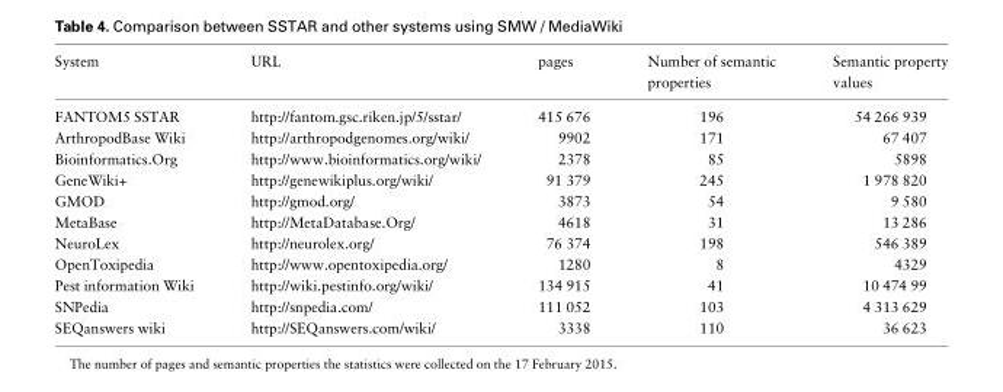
<table><thead><tr><td>System</td><td>URL</td><td>pages</td><td>Number of semantic properties</td><td>Semantic property values</td></tr></thead><tbody><tr><td>FANTOM5 SSTAR</td><td>http://fantom.gsc.riken.jp/5/sstar/</td><td>415 676</td><td>196</td><td>54 266 939</td></tr><tr><td>ArthropodBase Wiki</td><td>http://arthropodgenomes.org/wiki/</td><td>9902</td><td>171</td><td>67 407</td></tr><tr><td>Bioinformatics.Org</td><td>http://www.bioinformatics.org/wiki/</td><td>2378</td><td>85</td><td>5898</td></tr><tr><td>GeneWiki+</td><td>http://genewikiplus.org/wiki/</td><td>91 379</td><td>245</td><td>1 978 820</td></tr><tr><td>GMOD</td><td>http://gmod.org/</td><td>3873</td><td>54</td><td>9 580</td></tr><tr><td>MetaBase</td><td>http://MetaDatabase.Org/</td><td>4618</td><td>31</td><td>13 286</td></tr><tr><td>NeuroLex</td><td>http://neurolex.org/</td><td>76 374</td><td>198</td><td>546 389</td></tr><tr><td>OpenToxipedia</td><td>http://www.opentoxipedia.org/</td><td>1280</td><td>8</td><td>4329</td></tr><tr><td>Pest information Wiki</td><td>http://wiki.pestinfo.org/wiki/</td><td>134 915</td><td>41</td><td>10 474 99</td></tr><tr><td>SNPedia</td><td>http://snpedia.com/</td><td>111 052</td><td>103</td><td>4 313 629</td></tr><tr><td>SEQanswers wiki</td><td>http://SEQanswers.com/wiki/</td><td>3338</td><td>110</td><td>36 623</td></tr></tbody></table>